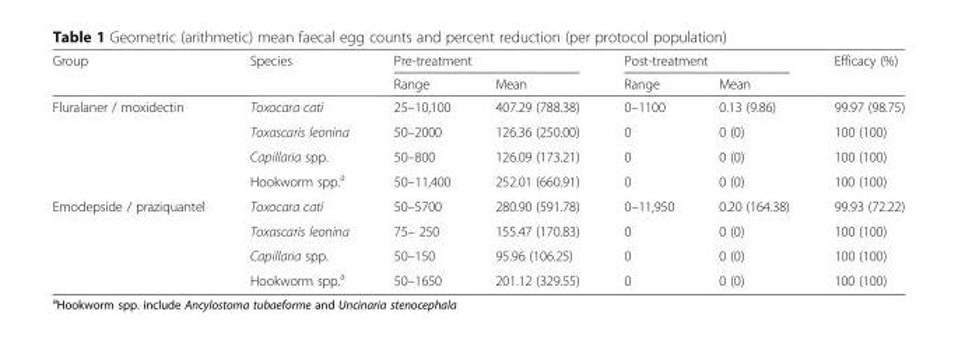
<table><thead><tr><td rowspan="2">Group</td><td rowspan="2">Species</td><td colspan="2">Pre-treatment</td><td colspan="2">Post-treatment</td><td rowspan="2">Efficacy (%)</td></tr><tr><td>Range</td><td>Mean</td><td>Range</td><td>Mean</td></tr></thead><tbody><tr><td rowspan="4">Fluralaner / moxidectin</td><td>Toxocara cati</td><td>25–10,100</td><td>407.29 (788.38)</td><td>0–1100</td><td>0.13 (9.86)</td><td>99.97 (98.75)</td></tr><tr><td>Toxascaris leonina</td><td>50–2000</td><td>126.36 (250.00)</td><td>0</td><td>0 (0)</td><td>100 (100)</td></tr><tr><td>Capillaria spp.</td><td>50–800</td><td>126.09 (173.21)</td><td>0</td><td>0 (0)</td><td>100 (100)</td></tr><tr><td>Hookworm spp.<sup>a</sup></td><td>50–11,400</td><td>252.01 (660.91)</td><td>0</td><td>0 (0)</td><td>100 (100)</td></tr><tr><td rowspan="4">Emodepside / praziquantel</td><td>Toxocara cati</td><td>50–5700</td><td>280.90 (591.78)</td><td>0–11,950</td><td>0.20 (164.38)</td><td>99.93 (72.22)</td></tr><tr><td>Toxascaris leonina</td><td>75– 250</td><td>155.47 (170.83)</td><td>0</td><td>0 (0)</td><td>100 (100)</td></tr><tr><td>Capillaria spp.</td><td>50–150</td><td>95.96 (106.25)</td><td>0</td><td>0 (0)</td><td>100 (100)</td></tr><tr><td>Hookworm spp.<sup>a</sup></td><td>50–1650</td><td>201.12 (329.55)</td><td>0</td><td>0 (0)</td><td>100 (100)</td></tr></tbody></table>